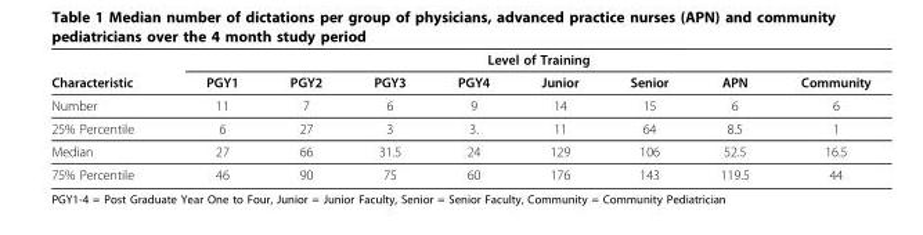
<table><thead><tr><td rowspan="2">Characteristic</td><td colspan="8">Level of Training</td></tr><tr><td>PGY1</td><td>PGY2</td><td>PGY3</td><td>PGY4</td><td>Junior</td><td>Senior</td><td>APN</td><td>Community</td></tr></thead><tbody><tr><td>Number</td><td>11</td><td>7</td><td>6</td><td>9</td><td>14</td><td>15</td><td>6</td><td>6</td></tr><tr><td>25% Percentile</td><td>6</td><td>27</td><td>3</td><td>3.</td><td>11</td><td>64</td><td>8.5</td><td>1</td></tr><tr><td>Median</td><td>27</td><td>66</td><td>31.5</td><td>24</td><td>129</td><td>106</td><td>52.5</td><td>16.5</td></tr><tr><td>75% Percentile</td><td>46</td><td>90</td><td>75</td><td>60</td><td>176</td><td>143</td><td>119.5</td><td>44</td></tr></tbody></table>